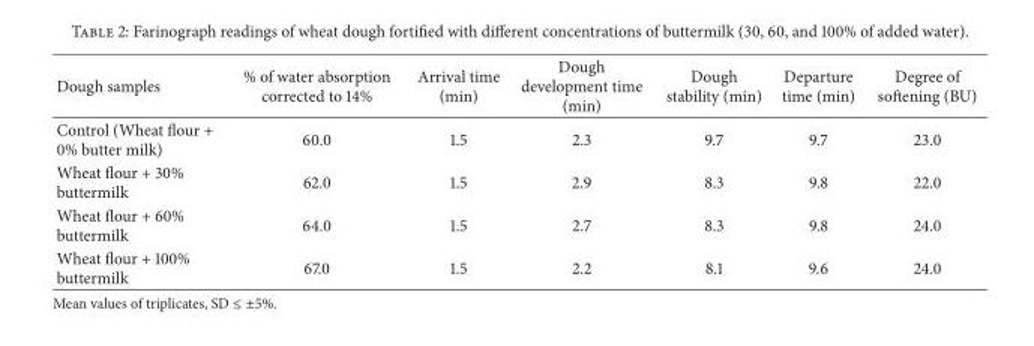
<table><thead><tr><td>Dough samples</td><td>% of water absorption corrected to 14%</td><td>Arrival time (min)</td><td>Dough development time (min)</td><td>Dough stability (min)</td><td>Departure time (min)</td><td>Degree of softening (BU)</td></tr></thead><tbody><tr><td>Control (Wheat flour + 0% butter milk)</td><td>60.0</td><td>1.5</td><td>2.3</td><td>9.7</td><td>9.7</td><td>23.0</td></tr><tr><td>Wheat flour + 30% buttermilk</td><td>62.0</td><td>1.5</td><td>2.9</td><td>8.3</td><td>9.8</td><td>22.0</td></tr><tr><td>Wheat flour + 60% buttermilk</td><td>64.0</td><td>1.5</td><td>2.7</td><td>8.3</td><td>9.8</td><td>24.0</td></tr><tr><td>Wheat flour + 100% buttermilk</td><td>67.0</td><td>1.5</td><td>2.2</td><td>8.1</td><td>9.6</td><td>24.0</td></tr></tbody></table>